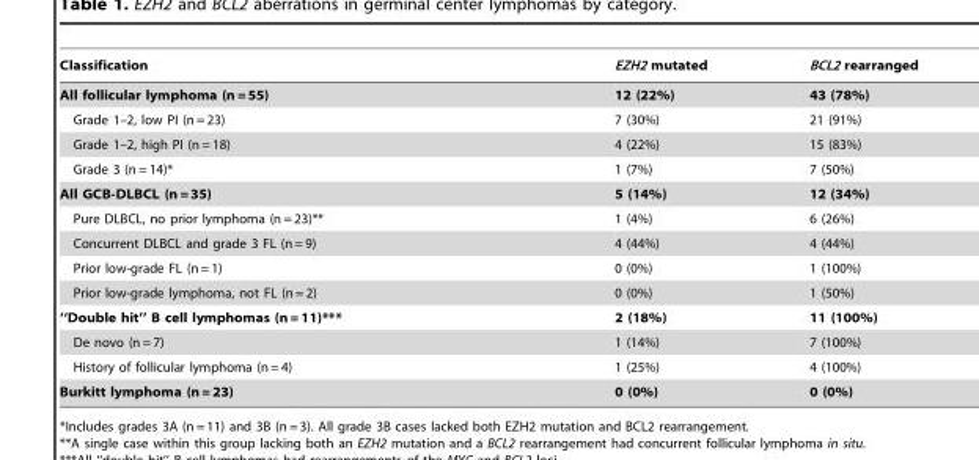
<table><thead><tr><td>Classification</td><td>EZH2 mutated</td><td>BCL2 rearranged</td></tr></thead><tbody><tr><td>All follicular lymphoma (n = 55)</td><td>12 (22%)</td><td>43 (78%)</td></tr><tr><td>Grade 1–2, low PI (n = 23)</td><td>7 (30%)</td><td>21 (91%)</td></tr><tr><td>Grade 1–2, high PI (n = 18)</td><td>4 (22%)</td><td>15 (83%)</td></tr><tr><td>Grade 3 (n = 14)*</td><td>1 (7%)</td><td>7 (50%)</td></tr><tr><td>All GCB-DLBCL (n = 35)</td><td>5 (14%)</td><td>12 (34%)</td></tr><tr><td>Pure DLBCL, no prior lymphoma (n = 23)**</td><td>1 (4%)</td><td>6 (26%)</td></tr><tr><td>Concurrent DLBCL and grade 3 FL (n = 9)</td><td>4 (44%)</td><td>4 (44%)</td></tr><tr><td>Prior low-grade FL (n = 1)</td><td>0 (0%)</td><td>1 (100%)</td></tr><tr><td>Prior low-grade lymphoma, not FL (n = 2)</td><td>0 (0%)</td><td>1 (50%)</td></tr><tr><td>‘‘Double hit’’ B cell lymphomas (n = 11)***</td><td>2 (18%)</td><td>11 (100%)</td></tr><tr><td>De novo (n = 7)</td><td>1 (14%)</td><td>7 (100%)</td></tr><tr><td>History of follicular lymphoma (n = 4)</td><td>1 (25%)</td><td>4 (100%)</td></tr><tr><td>Burkitt lymphoma (n = 23)</td><td>0 (0%)</td><td>0 (0%)</td></tr></tbody></table>